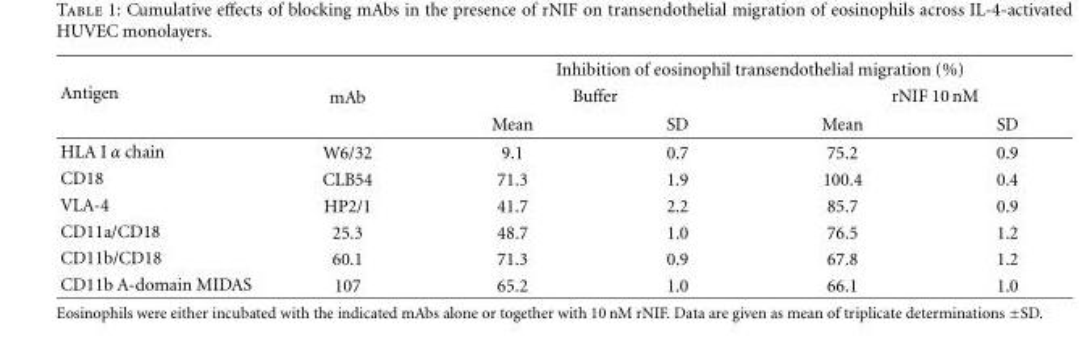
<table><thead><tr><td rowspan="3">Antigen</td><td rowspan="3">mAb</td><td colspan="4">Inhibition of eosinophil transendothelial migration (%)</td></tr><tr><td colspan="2">Buffer</td><td colspan="2">rNIF 10 nM</td></tr><tr><td>Mean</td><td>SD</td><td>Mean</td><td>SD</td></tr></thead><tbody><tr><td>HLA I α chain</td><td>W6/32</td><td>9.1</td><td>0.7</td><td>75.2</td><td>0.9</td></tr><tr><td>CD18</td><td>CLB54</td><td>71.3</td><td>1.9</td><td>100.4</td><td>0.4</td></tr><tr><td>VLA-4</td><td>HP2/1</td><td>41.7</td><td>2.2</td><td>85.7</td><td>0.9</td></tr><tr><td>CD11a/CD18</td><td>25.3</td><td>48.7</td><td>1.0</td><td>76.5</td><td>1.2</td></tr><tr><td>CD11b/CD18</td><td>60.1</td><td>71.3</td><td>0.9</td><td>67.8</td><td>1.2</td></tr><tr><td>CD11b A-domain MIDAS</td><td>107</td><td>65.2</td><td>1.0</td><td>66.1</td><td>1.0</td></tr></tbody></table>